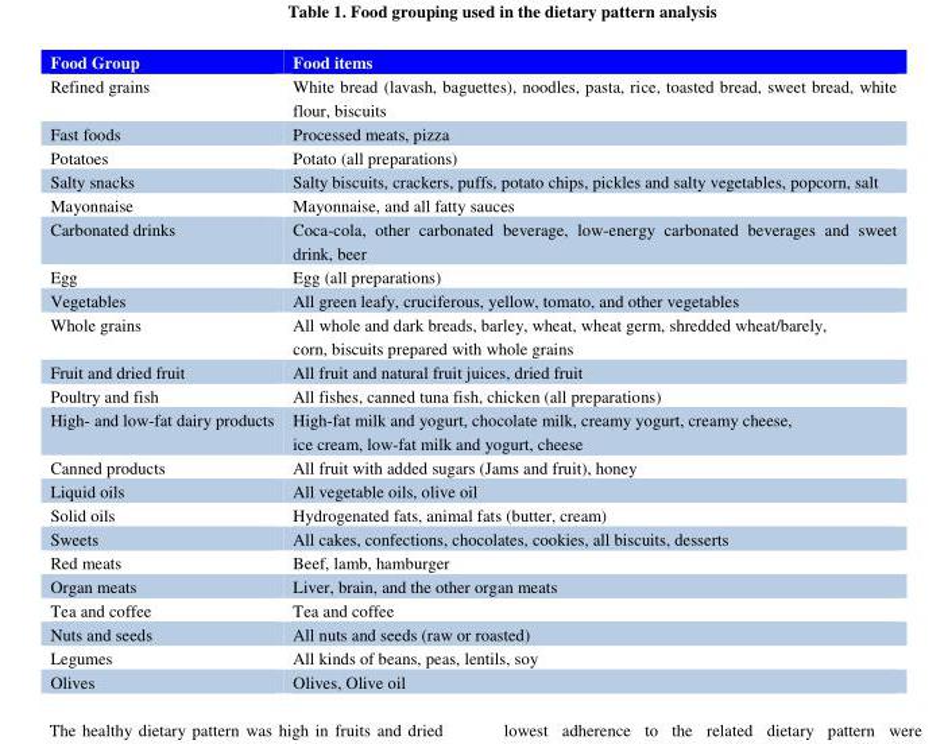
<table><thead><tr><td>Food Group</td><td>Food items</td></tr></thead><tbody><tr><td>Refined grains</td><td>White bread (lavash, baguettes), noodles, pasta, rice, toasted bread, sweet bread, white flour, biscuits</td></tr><tr><td>Fast foods</td><td>Processed meats, pizza</td></tr><tr><td>Potatoes</td><td>Potato (all preparations)</td></tr><tr><td>Salty snacks</td><td>Salty biscuits, crackers, puffs, potato chips, pickles and salty vegetables, popcorn, salt</td></tr><tr><td>Mayonnaise</td><td>Mayonnaise, and all fatty sauces</td></tr><tr><td>Carbonated drinks</td><td>Coca-cola, other carbonated beverage, low-energy carbonated beverages and sweet drink, beer</td></tr><tr><td>Egg</td><td>Egg (all preparations)</td></tr><tr><td>Vegetables</td><td>All green leafy, cruciferous, yellow, tomato, and other vegetables</td></tr><tr><td>Whole grains</td><td>All whole and dark breads, barley, wheat, wheat germ, shredded wheat/barely, corn, biscuits prepared with whole grains</td></tr><tr><td>Fruit and dried fruit</td><td>All fruit and natural fruit juices, dried fruit</td></tr><tr><td>Poultry and fish</td><td>All fishes, canned tuna fish, chicken (all preparations)</td></tr><tr><td>High- and low-fat dairy products</td><td>High-fat milk and yogurt, chocolate milk, creamy yogurt, creamy cheese, ice cream, low-fat milk and yogurt, cheese</td></tr><tr><td>Canned products</td><td>All fruit with added sugars (Jams and fruit), honey</td></tr><tr><td>Liquid oils</td><td>All vegetable oils, olive oil</td></tr><tr><td>Solid oils</td><td>Hydrogenated fats, animal fats (butter, cream)</td></tr><tr><td>Sweets</td><td>All cakes, confections, chocolates, cookies, all biscuits, desserts</td></tr><tr><td>Red meats</td><td>Beef, lamb, hamburger</td></tr><tr><td>Organ meats</td><td>Liver, brain, and the other organ meats</td></tr><tr><td>Tea and coffee</td><td>Tea and coffee</td></tr><tr><td>Nuts and seeds</td><td>All nuts and seeds (raw or roasted)</td></tr><tr><td>Legumes</td><td>All kinds of beans, peas, lentils, soy</td></tr><tr><td>Olives</td><td>Olives, Olive oil</td></tr></tbody></table>